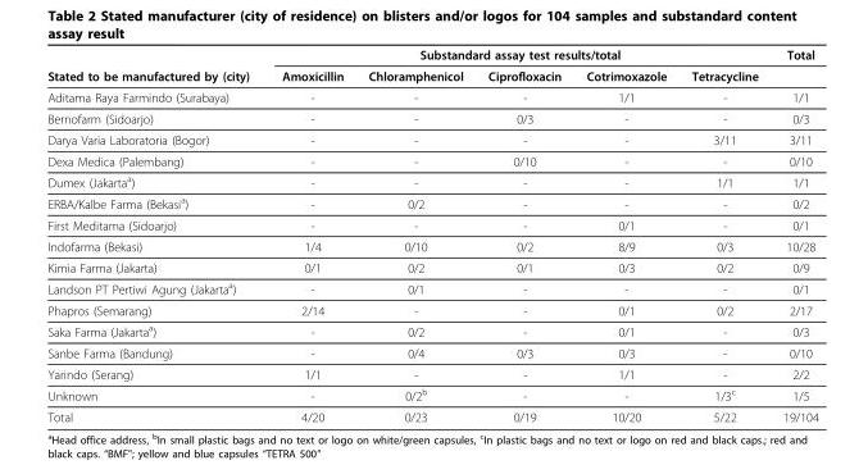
<table><thead><tr><td rowspan="2">Stated to be manufactured by (city)</td><td colspan="5">Substandard assay test results/total</td><td rowspan="2">Total</td></tr><tr><td>Amoxicillin</td><td>Chloramphenicol</td><td>Ciprofloxacin</td><td>Cotrimoxazole</td><td>Tetracycline</td></tr></thead><tbody><tr><td>Aditama Raya Farmindo (Surabaya)</td><td>-</td><td>-</td><td>-</td><td>1/1</td><td>-</td><td>1/1</td></tr><tr><td>Bernofarm (Sidoarjo)</td><td>-</td><td>-</td><td>0/3</td><td>-</td><td>-</td><td>0/3</td></tr><tr><td>Darya Varia Laboratoria (Bogor)</td><td>-</td><td>-</td><td>-</td><td>-</td><td>3/11</td><td>3/11</td></tr><tr><td>Dexa Medica (Palembang)</td><td>-</td><td>-</td><td>0/10</td><td>-</td><td>-</td><td>0/10</td></tr><tr><td>Dumex (Jakarta<sup>a</sup>)</td><td>-</td><td>-</td><td>-</td><td>-</td><td>1/1</td><td>1/1</td></tr><tr><td>ERBA/Kalbe Farma (Bekasi<sup>a</sup>)</td><td>-</td><td>0/2</td><td>-</td><td>-</td><td>-</td><td>0/2</td></tr><tr><td>First Meditama (Sidoarjo)</td><td>-</td><td>-</td><td>-</td><td>0/1</td><td>-</td><td>0/1</td></tr><tr><td>Indofarma (Bekasi)</td><td>1/4</td><td>0/10</td><td>0/2</td><td>8/9</td><td>0/3</td><td>10/28</td></tr><tr><td>Kimia Farma (Jakarta)</td><td>0/1</td><td>0/2</td><td>0/1</td><td>0/3</td><td>0/2</td><td>0/9</td></tr><tr><td>Landson PT Pertiwi Agung (Jakarta<sup>a</sup>)</td><td>-</td><td>0/1</td><td>-</td><td>-</td><td>-</td><td>0/1</td></tr><tr><td>Phapros (Semarang)</td><td>2/14</td><td>-</td><td>-</td><td>0/1</td><td>0/2</td><td>2/17</td></tr><tr><td>Saka Farma (Jakarta<sup>a</sup>)</td><td>-</td><td>0/2</td><td>-</td><td>0/1</td><td>-</td><td>0/3</td></tr><tr><td>Sanbe Farma (Bandung)</td><td>-</td><td>0/4</td><td>0/3</td><td>0/3</td><td>-</td><td>0/10</td></tr><tr><td>Yarindo (Serang)</td><td>1/1</td><td>-</td><td>-</td><td>1/1</td><td>-</td><td>2/2</td></tr><tr><td>Unknown</td><td>-</td><td>0/2<sup>b</sup></td><td>-</td><td>-</td><td>1/3<sup>c</sup></td><td>1/5</td></tr><tr><td>Total</td><td>4/20</td><td>0/23</td><td>0/19</td><td>10/20</td><td>5/22</td><td>19/104</td></tr></tbody></table>